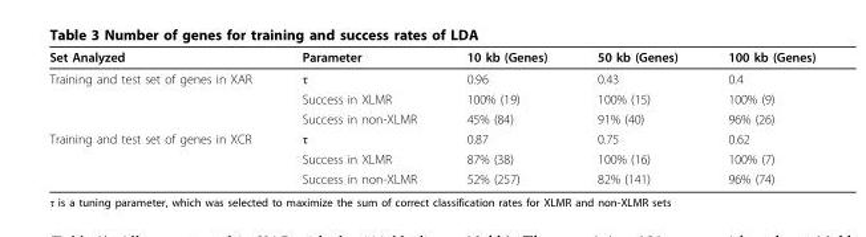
<table><thead><tr><td>Set Analyzed</td><td>Parameter</td><td>10 kb (Genes)</td><td>50 kb (Genes)</td><td>100 kb (Genes)</td></tr></thead><tbody><tr><td rowspan="3">Training and test set of genes in XAR</td><td>τ</td><td>0.96</td><td>0.43</td><td>0.4</td></tr><tr><td>Success in XLMR</td><td>100% (19)</td><td>100% (15)</td><td>100% (9)</td></tr><tr><td>Success in non-XLMR</td><td>45% (84)</td><td>91% (40)</td><td>96% (26)</td></tr><tr><td rowspan="3">Training and test set of genes in XCR</td><td>τ</td><td>0.87</td><td>0.75</td><td>0.62</td></tr><tr><td>Success in XLMR</td><td>87% (38)</td><td>100% (16)</td><td>100% (7)</td></tr><tr><td>Success in non-XLMR</td><td>52% (257)</td><td>82% (141)</td><td>96% (74)</td></tr></tbody></table>